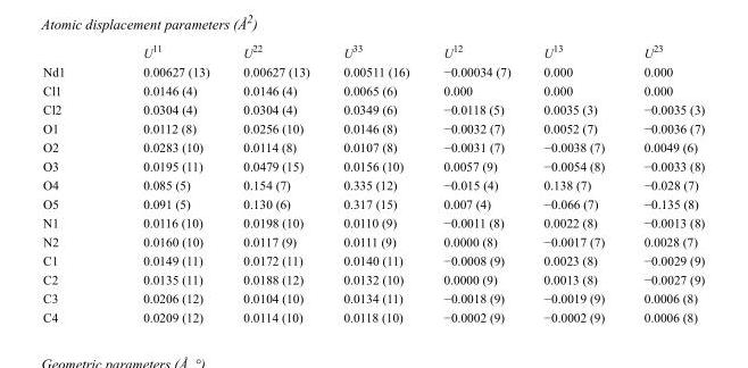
<table><thead><tr><td></td><td>U<sup>11</sup></td><td>U<sup>22</sup></td><td>U<sup>33</sup></td><td>U<sup>12</sup></td><td>U<sup>13</sup></td><td>U<sup>23</sup></td></tr></thead><tbody><tr><td>Nd1</td><td>0.00627 (13)</td><td>0.00627 (13)</td><td>0.00511 (16)</td><td>−0.00034 (7)</td><td>0.000</td><td>0.000</td></tr><tr><td>Cl1</td><td>0.0146 (4)</td><td>0.0146 (4)</td><td>0.0065 (6)</td><td>0.000</td><td>0.000</td><td>0.000</td></tr><tr><td>Cl2</td><td>0.0304 (4)</td><td>0.0304 (4)</td><td>0.0349 (6)</td><td>−0.0118 (5)</td><td>0.0035 (3)</td><td>−0.0035 (3)</td></tr><tr><td>O1</td><td>0.0112 (8)</td><td>0.0256 (10)</td><td>0.0146 (8)</td><td>−0.0032 (7)</td><td>0.0052 (7)</td><td>−0.0036 (7)</td></tr><tr><td>O2</td><td>0.0283 (10)</td><td>0.0114 (8)</td><td>0.0107 (8)</td><td>−0.0031 (7)</td><td>−0.0038 (7)</td><td>0.0049 (6)</td></tr><tr><td>O3</td><td>0.0195 (11)</td><td>0.0479 (15)</td><td>0.0156 (10)</td><td>0.0057 (9)</td><td>−0.0054 (8)</td><td>−0.0033 (8)</td></tr><tr><td>O4</td><td>0.085 (5)</td><td>0.154 (7)</td><td>0.335 (12)</td><td>−0.015 (4)</td><td>0.138 (7)</td><td>−0.028 (7)</td></tr><tr><td>O5</td><td>0.091 (5)</td><td>0.130 (6)</td><td>0.317 (15)</td><td>0.007 (4)</td><td>−0.066 (7)</td><td>−0.135 (8)</td></tr><tr><td>N1</td><td>0.0116 (10)</td><td>0.0198 (10)</td><td>0.0110 (9)</td><td>−0.0011 (8)</td><td>0.0022 (8)</td><td>−0.0013 (8)</td></tr><tr><td>N2</td><td>0.0160 (10)</td><td>0.0117 (9)</td><td>0.0111 (9)</td><td>0.0000 (8)</td><td>−0.0017 (7)</td><td>0.0028 (7)</td></tr><tr><td>C1</td><td>0.0149 (11)</td><td>0.0172 (11)</td><td>0.0140 (11)</td><td>−0.0008 (9)</td><td>0.0023 (8)</td><td>−0.0029 (9)</td></tr><tr><td>C2</td><td>0.0135 (11)</td><td>0.0188 (12)</td><td>0.0132 (10)</td><td>0.0000 (9)</td><td>0.0013 (8)</td><td>−0.0027 (9)</td></tr><tr><td>C3</td><td>0.0206 (12)</td><td>0.0104 (10)</td><td>0.0134 (11)</td><td>−0.0018 (9)</td><td>−0.0019 (9)</td><td>0.0006 (8)</td></tr><tr><td>C4</td><td>0.0209 (12)</td><td>0.0114 (10)</td><td>0.0118 (10)</td><td>−0.0002 (9)</td><td>−0.0002 (9)</td><td>0.0006 (8)</td></tr></tbody></table>